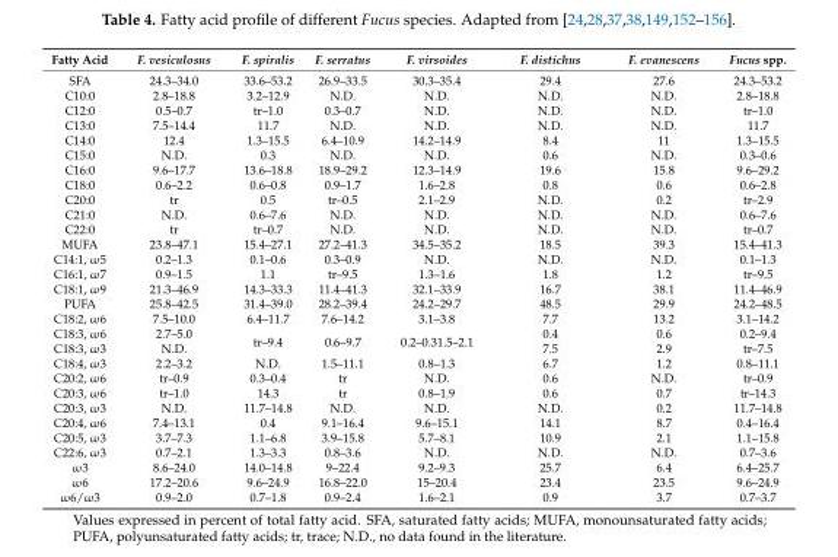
<table><thead><tr><td>Fatty Acid</td><td>F. vesiculosus</td><td>F. spiralis</td><td>F. serratus</td><td>F. virsoides</td><td>F. distichus</td><td>F. evanescens</td><td>Fucus spp.</td></tr></thead><tbody><tr><td>SFA</td><td>24.3–34.0</td><td>33.6–53.2</td><td>26.9–33.5</td><td>30.3–35.4</td><td>29.4</td><td>27.6</td><td>24.3–53.2</td></tr><tr><td>C10:0</td><td>2.8–18.8</td><td>3.2–12.9</td><td>N.D.</td><td>N.D.</td><td>N.D.</td><td>N.D.</td><td>2.8–18.8</td></tr><tr><td>C12:0</td><td>0.5–0.7</td><td>tr–1.0</td><td>0.3–0.7</td><td>N.D.</td><td>N.D.</td><td>N.D.</td><td>tr–1.0</td></tr><tr><td>C13:0</td><td>7.5–14.4</td><td>11.7</td><td>N.D.</td><td>N.D.</td><td>N.D.</td><td>N.D.</td><td>11.7</td></tr><tr><td>C14:0</td><td>12.4</td><td>1.3–15.5</td><td>6.4–10.9</td><td>14.2–14.9</td><td>8.4</td><td>11</td><td>1.3–15.5</td></tr><tr><td>C15:0</td><td>N.D.</td><td>0.3</td><td>N.D.</td><td>N.D.</td><td>0.6</td><td>N.D.</td><td>0.3–0.6</td></tr><tr><td>C16:0</td><td>9.6–17.7</td><td>13.6–18.8</td><td>18.9–29.2</td><td>12.3–14.9</td><td>19.6</td><td>15.8</td><td>9.6–29.2</td></tr><tr><td>C18:0</td><td>0.6–2.2</td><td>0.6–0.8</td><td>0.9–1.7</td><td>1.6–2.8</td><td>0.8</td><td>0.6</td><td>0.6–2.8</td></tr><tr><td>C20:0</td><td>tr</td><td>0.5</td><td>tr–0.5</td><td>2.1–2.9</td><td>N.D.</td><td>0.2</td><td>tr–2.9</td></tr><tr><td>C21:0</td><td>N.D.</td><td>0.6–7.6</td><td>N.D.</td><td>N.D.</td><td>N.D.</td><td>N.D.</td><td>0.6–7.6</td></tr><tr><td>C22:0</td><td>tr</td><td>tr–0.7</td><td>N.D.</td><td>N.D.</td><td>N.D.</td><td>N.D.</td><td>tr–0.7</td></tr><tr><td>MUFA</td><td>23.8–47.1</td><td>15.4–27.1</td><td>27.2–41.3</td><td>34.5–35.2</td><td>18.5</td><td>39.3</td><td>15.4–41.3</td></tr><tr><td>C14:1, ω5</td><td>0.2–1.3</td><td>0.1–0.6</td><td>0.3–0.9</td><td>N.D.</td><td>N.D.</td><td>N.D.</td><td>0.1–1.3</td></tr><tr><td>C16:1, ω7</td><td>0.9–1.5</td><td>1.1</td><td>tr–9.5</td><td>1.3–1.6</td><td>1.8</td><td>1.2</td><td>tr–9.5</td></tr><tr><td>C18:1, ω9</td><td>21.3–46.9</td><td>14.3–33.3</td><td>11.4–41.3</td><td>32.1–33.9</td><td>16.7</td><td>38.1</td><td>11.4–46.9</td></tr><tr><td>PUFA</td><td>25.8–42.5</td><td>31.4–39.0</td><td>28.2–39.4</td><td>24.2–29.7</td><td>48.5</td><td>29.9</td><td>24.2–48.5</td></tr><tr><td>C18:2, ω6</td><td>7.5–10.0</td><td>6.4–11.7</td><td>7.6–14.2</td><td>3.1–3.8</td><td>7.7</td><td>13.2</td><td>3.1–14.2</td></tr><tr><td>C18:3, ω6</td><td>2.7–5.0</td><td rowspan="2">tr–9.4</td><td rowspan="2">0.6–9.7</td><td rowspan="2">0.2–0.31.5–2.1</td><td>0.4</td><td>0.6</td><td>0.2–9.4</td></tr><tr><td>C18:3, ω3</td><td>N.D.</td><td>7.5</td><td>2.9</td><td>tr–7.5</td></tr><tr><td>C18:4, ω3</td><td>2.2–3.2</td><td>N.D.</td><td>1.5–11.1</td><td>0.8–1.3</td><td>6.7</td><td>1.2</td><td>0.8–11.1</td></tr><tr><td>C20:2, ω6</td><td>tr–0.9</td><td>0.3–0.4</td><td>tr</td><td>N.D.</td><td>0.6</td><td>N.D.</td><td>tr–0.9</td></tr><tr><td>C20:3, ω6</td><td>tr–1.0</td><td>14.3</td><td>tr</td><td>0.8–1.9</td><td>0.6</td><td>0.7</td><td>tr–14.3</td></tr><tr><td>C20:3, ω3</td><td>N.D.</td><td>11.7–14.8</td><td>N.D.</td><td>N.D.</td><td>N.D.</td><td>0.2</td><td>11.7–14.8</td></tr><tr><td>C20:4, ω6</td><td>7.4–13.1</td><td>0.4</td><td>9.1–16.4</td><td>9.6–15.1</td><td>14.1</td><td>8.7</td><td>0.4–16.4</td></tr><tr><td>C20:5, ω3</td><td>3.7–7.3</td><td>1.1–6.8</td><td>3.9–15.8</td><td>5.7–8.1</td><td>10.9</td><td>2.1</td><td>1.1–15.8</td></tr><tr><td>C22:6, ω3</td><td>0.7–2.1</td><td>1.3–3.3</td><td>0.8–3.6</td><td>N.D.</td><td>N.D.</td><td>N.D.</td><td>0.7–3.6</td></tr><tr><td>ω3</td><td>8.6–24.0</td><td>14.0–14.8</td><td>9–22.4</td><td>9.2–9.3</td><td>25.7</td><td>6.4</td><td>6.4–25.7</td></tr><tr><td>ω6</td><td>17.2–20.6</td><td>9.6–24.9</td><td>16.8–22.0</td><td>15–20.4</td><td>23.4</td><td>23.5</td><td>9.6–24.9</td></tr><tr><td>ω6/ω3</td><td>0.9–2.0</td><td>0.7–1.8</td><td>0.9–2.4</td><td>1.6–2.1</td><td>0.9</td><td>3.7</td><td>0.7–3.7</td></tr></tbody></table>